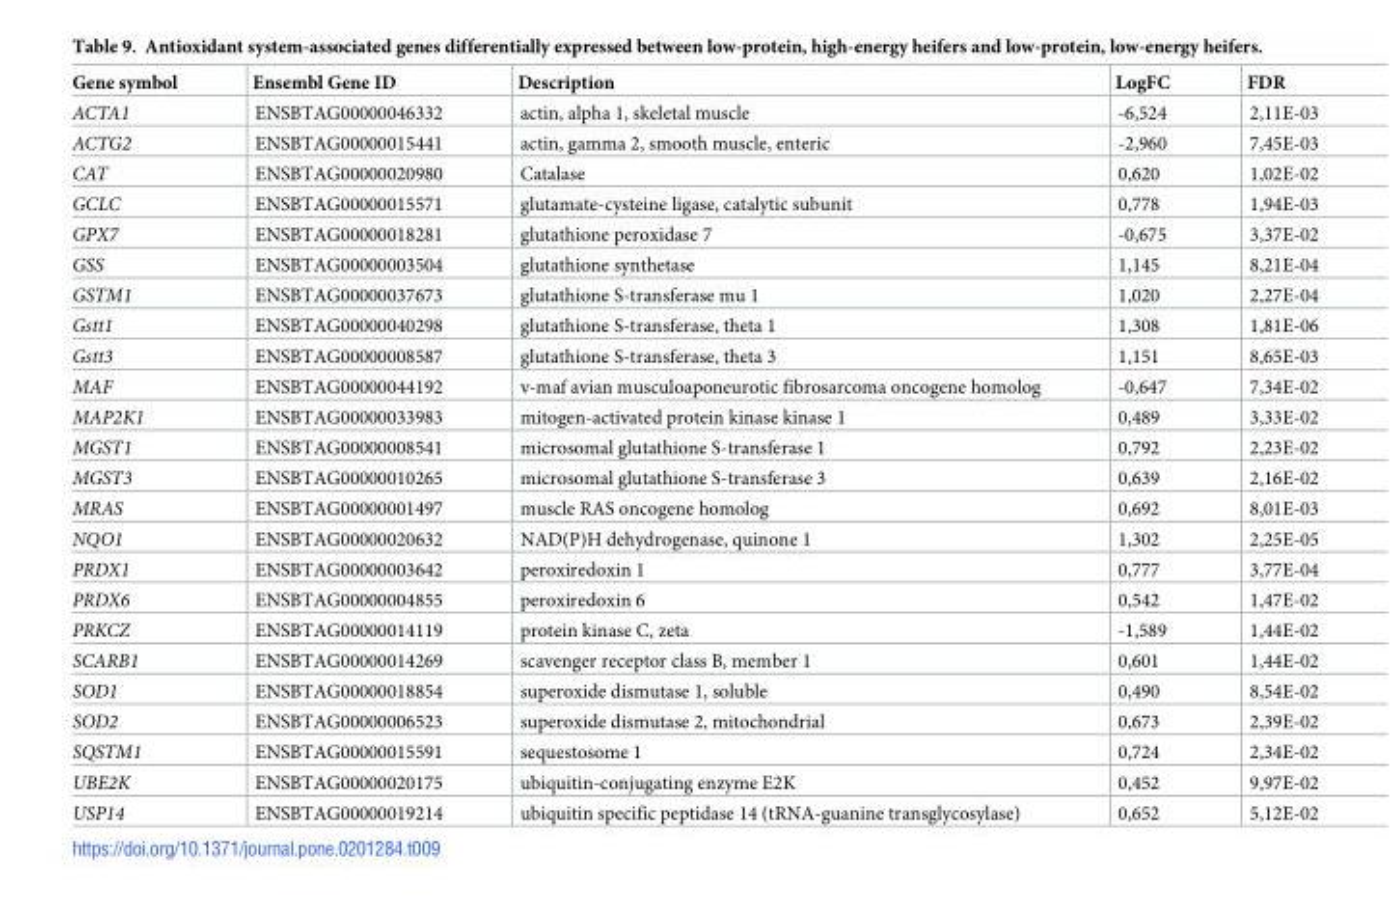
<table><thead><tr><td>Gene symbol</td><td>Ensembl Gene ID</td><td>Description</td><td>LogFC</td><td>FDR</td></tr></thead><tbody><tr><td>ACTA1</td><td>ENSBTAG00000046332</td><td>actin, alpha 1, skeletal muscle</td><td>-6,524</td><td>2,11E-03</td></tr><tr><td>ACTG2</td><td>ENSBTAG00000015441</td><td>actin, gamma 2, smooth muscle, enteric</td><td>-2,960</td><td>7,45E-03</td></tr><tr><td>CAT</td><td>ENSBTAG00000020980</td><td>Catalase</td><td>0,620</td><td>1,02E-02</td></tr><tr><td>GCLC</td><td>ENSBTAG00000015571</td><td>glutamate-cysteine ligase, catalytic subunit</td><td>0,778</td><td>1,94E-03</td></tr><tr><td>GPX7</td><td>ENSBTAG00000018281</td><td>glutathione peroxidase 7</td><td>-0,675</td><td>3,37E-02</td></tr><tr><td>GSS</td><td>ENSBTAG00000003504</td><td>glutathione synthetase</td><td>1,145</td><td>8,21E-04</td></tr><tr><td>GSTM1</td><td>ENSBTAG00000037673</td><td>glutathione S-transferase mu 1</td><td>1,020</td><td>2,27E-04</td></tr><tr><td>Gstt1</td><td>ENSBTAG00000040298</td><td>glutathione S-transferase, theta 1</td><td>1,308</td><td>1,81E-06</td></tr><tr><td>Gstt3</td><td>ENSBTAG00000008587</td><td>glutathione S-transferase, theta 3</td><td>1,151</td><td>8,65E-03</td></tr><tr><td>MAF</td><td>ENSBTAG00000044192</td><td>v-maf avian musculoaponeurotic fibrosarcoma oncogene homolog</td><td>-0,647</td><td>7,34E-02</td></tr><tr><td>MAP2K1</td><td>ENSBTAG00000033983</td><td>mitogen-activated protein kinase kinase 1</td><td>0,489</td><td>3,33E-02</td></tr><tr><td>MGST1</td><td>ENSBTAG00000008541</td><td>microsomal glutathione S-transferase 1</td><td>0,792</td><td>2,23E-02</td></tr><tr><td>MGST3</td><td>ENSBTAG00000010265</td><td>microsomal glutathione S-transferase 3</td><td>0,639</td><td>2,16E-02</td></tr><tr><td>MRAS</td><td>ENSBTAG00000001497</td><td>muscle RAS oncogene homolog</td><td>0,692</td><td>8,01E-03</td></tr><tr><td>NQO1</td><td>ENSBTAG00000020632</td><td>NAD(P)H dehydrogenase, quinone 1</td><td>1,302</td><td>2,25E-05</td></tr><tr><td>PRDX1</td><td>ENSBTAG00000003642</td><td>peroxiredoxin 1</td><td>0,777</td><td>3,77E-04</td></tr><tr><td>PRDX6</td><td>ENSBTAG00000004855</td><td>peroxiredoxin 6</td><td>0,542</td><td>1,47E-02</td></tr><tr><td>PRKCZ</td><td>ENSBTAG00000014119</td><td>protein kinase C, zeta</td><td>-1,589</td><td>1,44E-02</td></tr><tr><td>SCARB1</td><td>ENSBTAG00000014269</td><td>scavenger receptor class B, member 1</td><td>0,601</td><td>1,44E-02</td></tr><tr><td>SOD1</td><td>ENSBTAG00000018854</td><td>superoxide dismutase 1, soluble</td><td>0,490</td><td>8,54E-02</td></tr><tr><td>SOD2</td><td>ENSBTAG00000006523</td><td>superoxide dismutase 2, mitochondrial</td><td>0,673</td><td>2,39E-02</td></tr><tr><td>SQSTM1</td><td>ENSBTAG00000015591</td><td>sequestosome 1</td><td>0,724</td><td>2,34E-02</td></tr><tr><td>UBE2K</td><td>ENSBTAG00000020175</td><td>ubiquitin-conjugating enzyme E2K</td><td>0,452</td><td>9,97E-02</td></tr><tr><td>USP14</td><td>ENSBTAG00000019214</td><td>ubiquitin specific peptidase 14 (tRNA-guanine transglycosylase)</td><td>0,652</td><td>5,12E-02</td></tr></tbody></table>